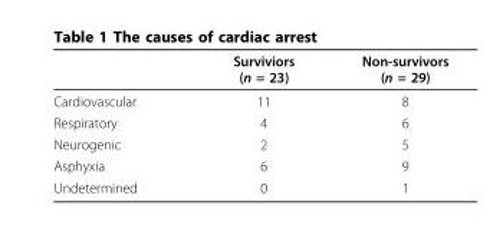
<table><thead><tr><td></td><td>Surviviors (n = 23)</td><td>Non-survivors (n = 29)</td></tr></thead><tbody><tr><td>Cardiovascular</td><td>11</td><td>8</td></tr><tr><td>Respiratory</td><td>4</td><td>6</td></tr><tr><td>Neurogenic</td><td>2</td><td>5</td></tr><tr><td>Asphyxia</td><td>6</td><td>9</td></tr><tr><td>Undetermined</td><td>0</td><td>1</td></tr></tbody></table>